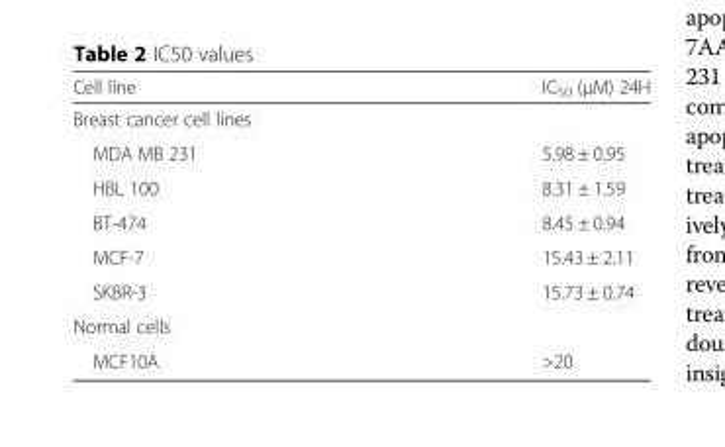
<table><thead><tr><td>Cell line</td><td>IC<sub>50</sub> (μM) 24H</td></tr></thead><tbody><tr><td colspan="2">Breast cancer cell lines</td></tr><tr><td>MDA MB 231</td><td>5.98 ± 0.95</td></tr><tr><td>HBL 100</td><td>8.31 ± 1.59</td></tr><tr><td>BT-474</td><td>8.45 ± 0.94</td></tr><tr><td>MCF-7</td><td>15.43 ± 2.11</td></tr><tr><td>SKBR-3</td><td>15.73 ± 0.74</td></tr><tr><td colspan="2">Normal cells</td></tr><tr><td>MCF10A</td><td>&gt;20</td></tr></tbody></table>